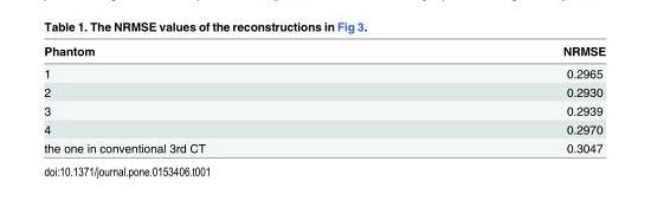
<table><thead><tr><td>Phantom</td><td>NRMSE</td></tr></thead><tbody><tr><td>1</td><td>0.2965</td></tr><tr><td>2</td><td>0.2930</td></tr><tr><td>3</td><td>0.2939</td></tr><tr><td>4</td><td>0.2970</td></tr><tr><td>the one in conventional 3rd CT</td><td>0.3047</td></tr></tbody></table>